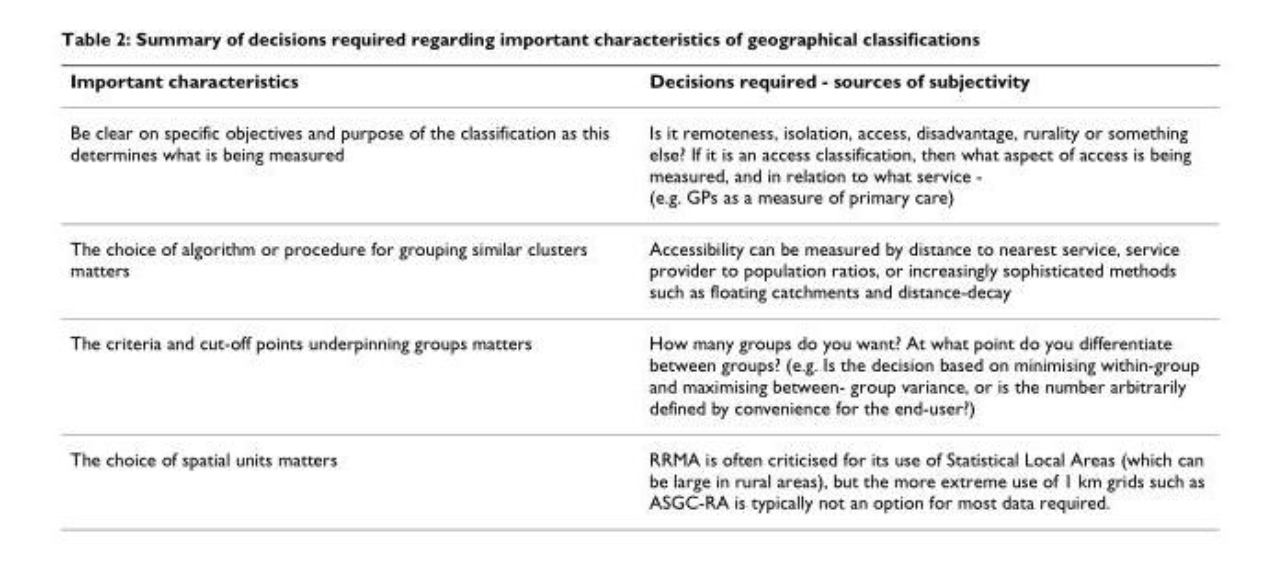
<table><thead><tr><td>Important characteristics</td><td>Decisions required - sources of subjectivity</td></tr></thead><tbody><tr><td>Be clear on specific objectives and purpose of the classification as this determines what is being measured</td><td>Is it remoteness, isolation, access, disadvantage, rurality or something else? If it is an access classification, then what aspect of access is being measured, and in relation to what service - (e.g. GPs as a measure of primary care)</td></tr><tr><td>The choice of algorithm or procedure for grouping similar clusters matters</td><td>Accessibility can be measured by distance to nearest service, service provider to population ratios, or increasingly sophisticated methods such as floating catchments and distance-decay</td></tr><tr><td>The criteria and cut-off points underpinning groups matters</td><td>How many groups do you want? At what point do you differentiate between groups? (e.g. Is the decision based on minimising within-group and maximising between- group variance, or is the number arbitrarily defined by convenience for the end-user?)</td></tr><tr><td>The choice of spatial units matters</td><td>RRMA is often criticised for its use of Statistical Local Areas (which can be large in rural areas), but the more extreme use of 1 km grids such as ASGC-RA is typically not an option for most data required.</td></tr></tbody></table>